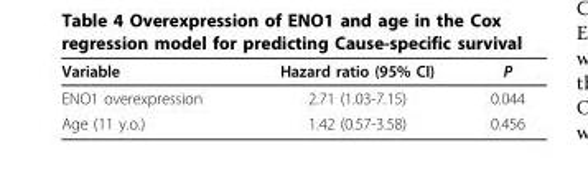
<table><thead><tr><td>Variable</td><td>Hazard ratio (95% CI)</td><td>P</td></tr></thead><tbody><tr><td>ENO1 overexpression</td><td>2.71 (1.03-7.15)</td><td>0.044</td></tr><tr><td>Age (11 y.o.)</td><td>1.42 (0.57-3.58)</td><td>0.456</td></tr></tbody></table>